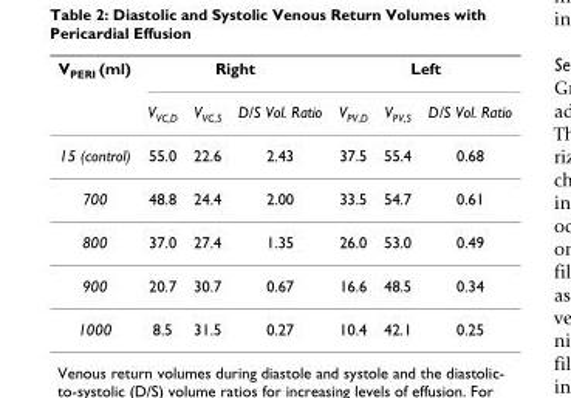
<table><thead><tr><td rowspan="2">V<sub>PERI</sub> (ml)</td><td colspan="3">Right</td><td colspan="3">Left</td></tr><tr><td>V<sub>VC,D</sub></td><td>V<sub>VC,S</sub></td><td>D/S Vol. Ratio</td><td>V<sub>PV,D</sub></td><td>V<sub>PV,S</sub></td><td>D/S Vol. Ratio</td></tr></thead><tbody><tr><td>15 (control)</td><td>55.0</td><td>22.6</td><td>2.43</td><td>37.5</td><td>55.4</td><td>0.68</td></tr><tr><td>700</td><td>48.8</td><td>24.4</td><td>2.00</td><td>33.5</td><td>54.7</td><td>0.61</td></tr><tr><td>800</td><td>37.0</td><td>27.4</td><td>1.35</td><td>26.0</td><td>53.0</td><td>0.49</td></tr><tr><td>900</td><td>20.7</td><td>30.7</td><td>0.67</td><td>16.6</td><td>48.5</td><td>0.34</td></tr><tr><td>1000</td><td>8.5</td><td>31.5</td><td>0.27</td><td>10.4</td><td>42.1</td><td>0.25</td></tr></tbody></table>